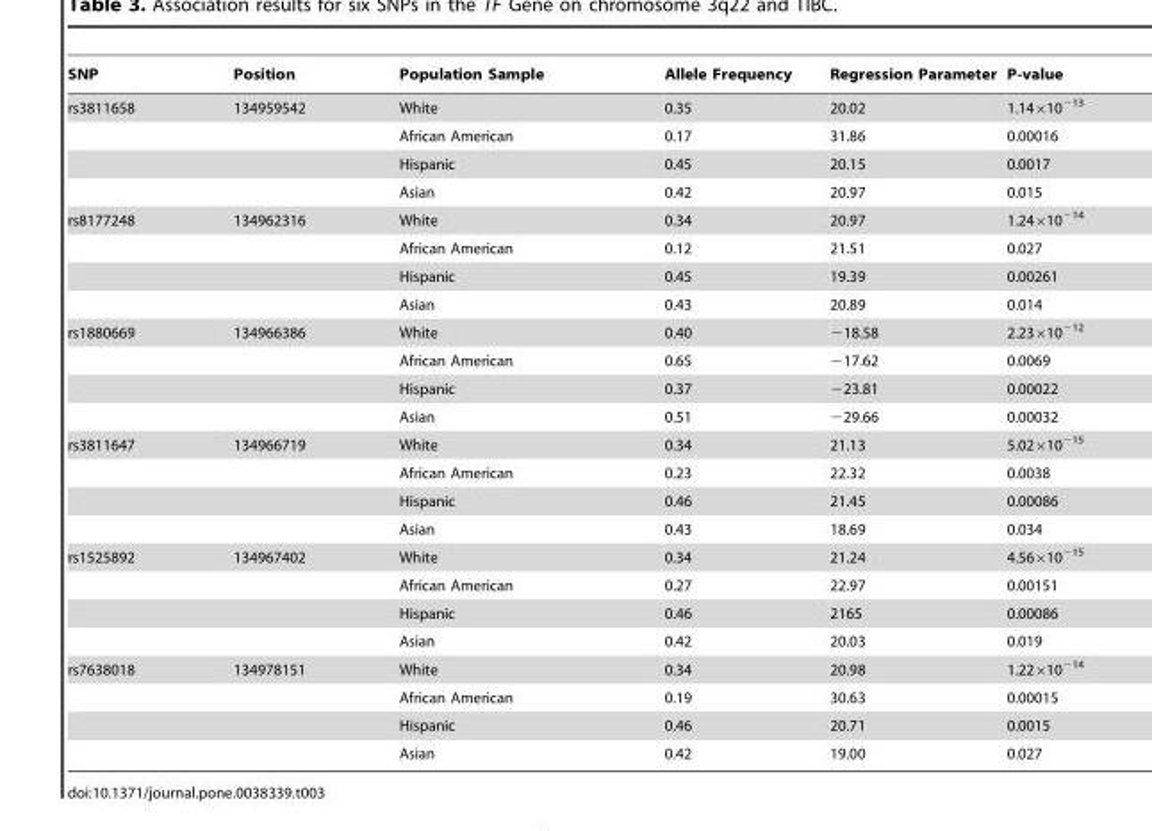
<table><thead><tr><td>SNP</td><td>Position</td><td>Population Sample</td><td>Allele Frequency</td><td>Regression Parameter</td><td>P-value</td></tr></thead><tbody><tr><td rowspan="4">rs3811658</td><td>134959542</td><td>White</td><td>0.35</td><td>20.02</td><td>1.14×10<sup>−13</sup></td></tr><tr><td></td><td>African American</td><td>0.17</td><td>31.86</td><td>0.00016</td></tr><tr><td></td><td>Hispanic</td><td>0.45</td><td>20.15</td><td>0.0017</td></tr><tr><td></td><td>Asian</td><td>0.42</td><td>20.97</td><td>0.015</td></tr><tr><td rowspan="4">rs8177248</td><td>134962316</td><td>White</td><td>0.34</td><td>20.97</td><td>1.24×10<sup>−14</sup></td></tr><tr><td></td><td>African American</td><td>0.12</td><td>21.51</td><td>0.027</td></tr><tr><td></td><td>Hispanic</td><td>0.45</td><td>19.39</td><td>0.00261</td></tr><tr><td></td><td>Asian</td><td>0.43</td><td>20.89</td><td>0.014</td></tr><tr><td rowspan="4">rs1880669</td><td>134966386</td><td>White</td><td>0.40</td><td>−18.58</td><td>2.23×10<sup>−12</sup></td></tr><tr><td></td><td>African American</td><td>0.65</td><td>−17.62</td><td>0.0069</td></tr><tr><td></td><td>Hispanic</td><td>0.37</td><td>−23.81</td><td>0.00022</td></tr><tr><td></td><td>Asian</td><td>0.51</td><td>−29.66</td><td>0.00032</td></tr><tr><td rowspan="4">rs3811647</td><td>134966719</td><td>White</td><td>0.34</td><td>21.13</td><td>5.02×10<sup>−15</sup></td></tr><tr><td></td><td>African American</td><td>0.23</td><td>22.32</td><td>0.0038</td></tr><tr><td></td><td>Hispanic</td><td>0.46</td><td>21.45</td><td>0.00086</td></tr><tr><td></td><td>Asian</td><td>0.43</td><td>18.69</td><td>0.034</td></tr><tr><td rowspan="4">rs1525892</td><td>134967402</td><td>White</td><td>0.34</td><td>21.24</td><td>4.56×10<sup>−15</sup></td></tr><tr><td></td><td>African American</td><td>0.27</td><td>22.97</td><td>0.00151</td></tr><tr><td></td><td>Hispanic</td><td>0.46</td><td>2165</td><td>0.00086</td></tr><tr><td></td><td>Asian</td><td>0.42</td><td>20.03</td><td>0.019</td></tr><tr><td rowspan="4">rs7638018</td><td>134978151</td><td>White</td><td>0.34</td><td>20.98</td><td>1.22×10<sup>−14</sup></td></tr><tr><td></td><td>African American</td><td>0.19</td><td>30.63</td><td>0.00015</td></tr><tr><td></td><td>Hispanic</td><td>0.46</td><td>20.71</td><td>0.0015</td></tr><tr><td></td><td>Asian</td><td>0.42</td><td>19.00</td><td>0.027</td></tr></tbody></table>